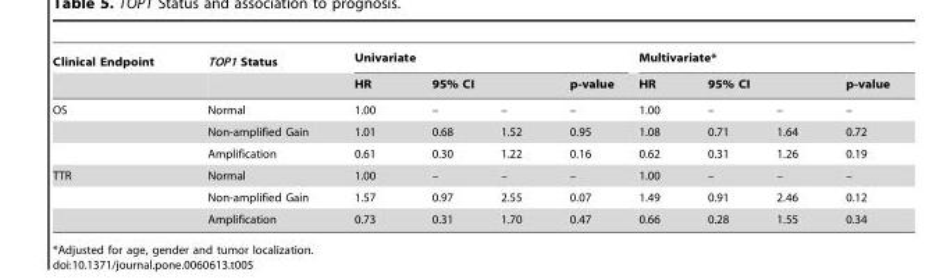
<table><thead><tr><td rowspan="3">Clinical Endpoint OS</td><td rowspan="3">TOP1 Status Normal</td><td colspan="4">Univariate</td><td colspan="4">Multivariate*</td></tr><tr><td rowspan="2">HR 1.00</td><td colspan="2">95% CI</td><td rowspan="2">p-value –</td><td rowspan="2">HR 1.00</td><td colspan="2">95% CI</td><td rowspan="2">p-value –</td></tr><tr><td>–</td><td>–</td><td>–</td><td>–</td></tr></thead><tbody><tr><td></td><td>Non-amplified Gain</td><td>1.01</td><td>0.68</td><td>1.52</td><td>0.95</td><td>1.08</td><td>0.71</td><td>1.64</td><td>0.72</td></tr><tr><td></td><td>Amplification</td><td>0.61</td><td>0.30</td><td>1.22</td><td>0.16</td><td>0.62</td><td>0.31</td><td>1.26</td><td>0.19</td></tr><tr><td rowspan="3">TTR</td><td>Normal</td><td>1.00</td><td>–</td><td>–</td><td>–</td><td>1.00</td><td>–</td><td>–</td><td>–</td></tr><tr><td>Non-amplified Gain</td><td>1.57</td><td>0.97</td><td>2.55</td><td>0.07</td><td>1.49</td><td>0.91</td><td>2.46</td><td>0.12</td></tr><tr><td>Amplification</td><td>0.73</td><td>0.31</td><td>1.70</td><td>0.47</td><td>0.66</td><td>0.28</td><td>1.55</td><td>0.34</td></tr></tbody></table>